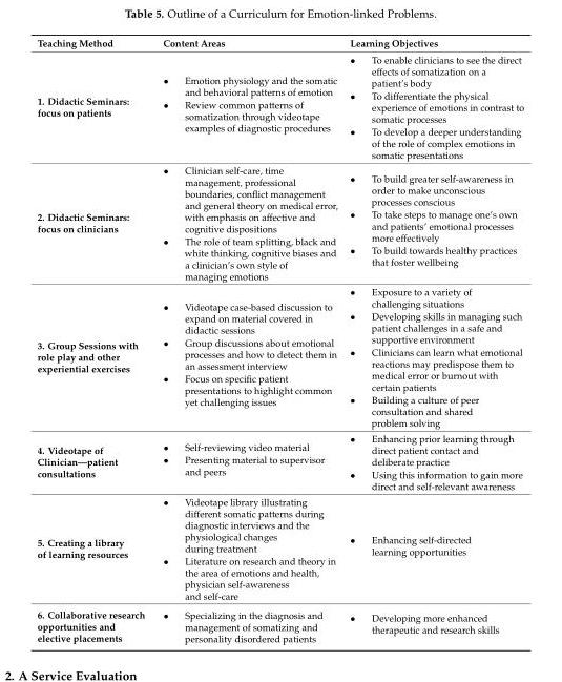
<table><thead><tr><td>Teaching Method</td><td>Content Areas</td><td>Learning Objectives</td></tr></thead><tbody><tr><td>1. Didactic Seminars: focus on patients</td><td>• Emotion physiology and the somatic and behavioral patterns of emotion • Review common patterns of somatization through videotape examples of diagnostic procedures</td><td>• To enable clinicians to see the direct effects of somatization on a patient’s body • To differentiate the physical experience of emotions in contrast to somatic processes • To develop a deeper understanding of the role of complex emotions in somatic presentations</td></tr><tr><td>2. Didactic Seminars: focus on clinicians</td><td>• Clinician self-care, time management, professional boundaries, conflict management and general theory on medical error, with emphasis on affective and cognitive dispositions • The role of team splitting, black and white thinking, cognitive biases and a clinician’s own style of managing emotions</td><td>• To build greater self-awareness in order to make unconscious processes conscious • To take steps to manage one’s own and patients’ emotional processes more effectively • To build towards healthy practices that foster wellbeing</td></tr><tr><td>3. Group Sessions with role play and other experiential exercises</td><td>• Videotape case-based discussion to expand on material covered in didactic sessions • Group discussions about emotional processes and how to detect them in an assessment interview • Focus on specific patient presentations to highlight common yet challenging issues</td><td>• Exposure to a variety of challenging situations • Developing skills in managing such patient challenges in a safe and supportive environment • Clinicians can learn what emotional reactions may predispose them to medical error or burnout with certain patients • Building a culture of peer consultation and shared problem solving</td></tr><tr><td>4. Videotape of Clinician—patient consultations</td><td>• Self-reviewing video material • Presenting material to supervisor and peers</td><td>• Enhancing prior learning through direct patient contact and deliberate practice • Using this information to gain more direct and self-relevant awareness</td></tr><tr><td>5. Creating a library of learning resources</td><td>• Videotape library illustrating different somatic patterns during diagnostic interviews and the physiological changes during treatment • Literature on research and theory in the area of emotions and health, physician self-awareness and self-care</td><td>• Enhancing self-directed learning opportunities</td></tr><tr><td>6. Collaborative research opportunities and elective placements</td><td>• Specializing in the diagnosis and management of somatizing and personality disordered patients</td><td>• Developing more enhanced therapeutic and research skills</td></tr></tbody></table>